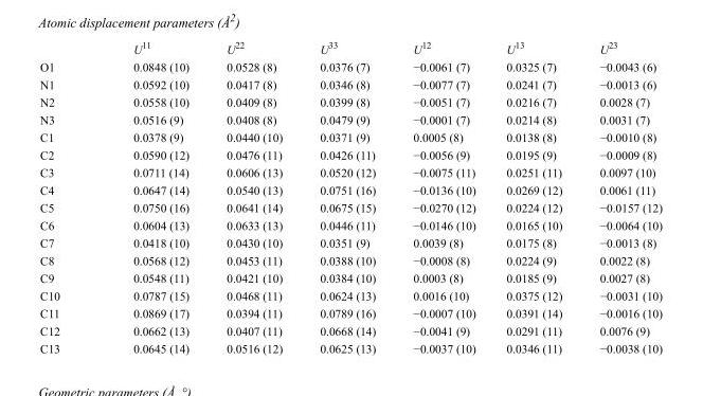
<table><thead><tr><td></td><td>U<sup>11</sup></td><td>U<sup>22</sup></td><td>U<sup>33</sup></td><td>U<sup>12</sup></td><td>U<sup>13</sup></td><td>U<sup>23</sup></td></tr></thead><tbody><tr><td>O1</td><td>0.0848 (10)</td><td>0.0528 (8)</td><td>0.0376 (7)</td><td>−0.0061 (7)</td><td>0.0325 (7)</td><td>−0.0043 (6)</td></tr><tr><td>N1</td><td>0.0592 (10)</td><td>0.0417 (8)</td><td>0.0346 (8)</td><td>−0.0077 (7)</td><td>0.0241 (7)</td><td>−0.0013 (6)</td></tr><tr><td>N2</td><td>0.0558 (10)</td><td>0.0409 (8)</td><td>0.0399 (8)</td><td>−0.0051 (7)</td><td>0.0216 (7)</td><td>0.0028 (7)</td></tr><tr><td>N3</td><td>0.0516 (9)</td><td>0.0408 (8)</td><td>0.0479 (9)</td><td>−0.0001 (7)</td><td>0.0214 (8)</td><td>0.0031 (7)</td></tr><tr><td>C1</td><td>0.0378 (9)</td><td>0.0440 (10)</td><td>0.0371 (9)</td><td>0.0005 (8)</td><td>0.0138 (8)</td><td>−0.0010 (8)</td></tr><tr><td>C2</td><td>0.0590 (12)</td><td>0.0476 (11)</td><td>0.0426 (11)</td><td>−0.0056 (9)</td><td>0.0195 (9)</td><td>−0.0009 (8)</td></tr><tr><td>C3</td><td>0.0711 (14)</td><td>0.0606 (13)</td><td>0.0520 (12)</td><td>−0.0075 (11)</td><td>0.0251 (11)</td><td>0.0097 (10)</td></tr><tr><td>C4</td><td>0.0647 (14)</td><td>0.0540 (13)</td><td>0.0751 (16)</td><td>−0.0136 (10)</td><td>0.0269 (12)</td><td>0.0061 (11)</td></tr><tr><td>C5</td><td>0.0750 (16)</td><td>0.0641 (14)</td><td>0.0675 (15)</td><td>−0.0270 (12)</td><td>0.0224 (12)</td><td>−0.0157 (12)</td></tr><tr><td>C6</td><td>0.0604 (13)</td><td>0.0633 (13)</td><td>0.0446 (11)</td><td>−0.0146 (10)</td><td>0.0165 (10)</td><td>−0.0064 (10)</td></tr><tr><td>C7</td><td>0.0418 (10)</td><td>0.0430 (10)</td><td>0.0351 (9)</td><td>0.0039 (8)</td><td>0.0175 (8)</td><td>−0.0013 (8)</td></tr><tr><td>C8</td><td>0.0568 (12)</td><td>0.0453 (11)</td><td>0.0388 (10)</td><td>−0.0008 (8)</td><td>0.0224 (9)</td><td>0.0022 (8)</td></tr><tr><td>C9</td><td>0.0548 (11)</td><td>0.0421 (10)</td><td>0.0384 (10)</td><td>0.0003 (8)</td><td>0.0185 (9)</td><td>0.0027 (8)</td></tr><tr><td>C10</td><td>0.0787 (15)</td><td>0.0468 (11)</td><td>0.0624 (13)</td><td>0.0016 (10)</td><td>0.0375 (12)</td><td>−0.0031 (10)</td></tr><tr><td>C11</td><td>0.0869 (17)</td><td>0.0394 (11)</td><td>0.0789 (16)</td><td>−0.0007 (10)</td><td>0.0391 (14)</td><td>−0.0016 (10)</td></tr><tr><td>C12</td><td>0.0662 (13)</td><td>0.0407 (11)</td><td>0.0668 (14)</td><td>−0.0041 (9)</td><td>0.0291 (11)</td><td>0.0076 (9)</td></tr><tr><td>C13</td><td>0.0645 (14)</td><td>0.0516 (12)</td><td>0.0625 (13)</td><td>−0.0037 (10)</td><td>0.0346 (11)</td><td>−0.0038 (10)</td></tr></tbody></table>